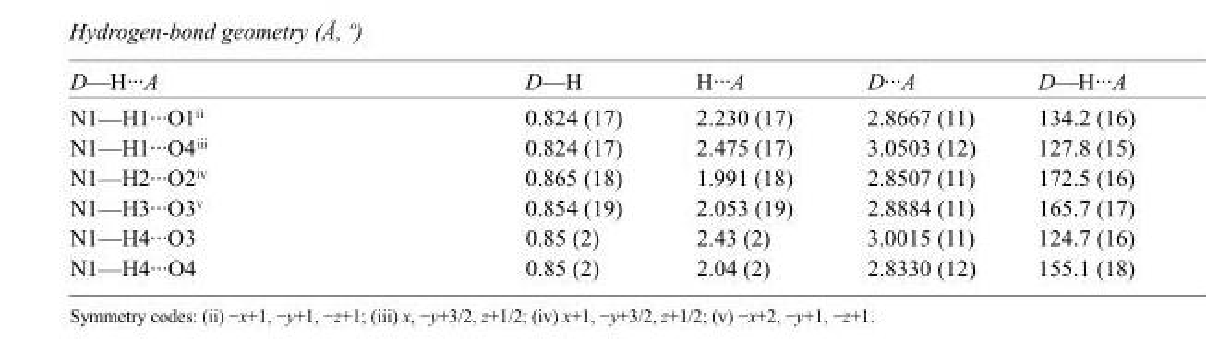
<table><tbody><tr><td>D—H···A</td><td>D—H</td><td>H···A</td><td>D···A</td><td>D—H···A</td></tr><tr><td>N1—H1···O1<sup>ii</sup></td><td>0.824 (17)</td><td>2.230 (17)</td><td>2.8667 (11)</td><td>134.2 (16)</td></tr><tr><td>N1—H1···O4<sup>iii</sup></td><td>0.824 (17)</td><td>2.475 (17)</td><td>3.0503 (12)</td><td>127.8 (15)</td></tr><tr><td>N1—H2···O2<sup>iv</sup></td><td>0.865 (18)</td><td>1.991 (18)</td><td>2.8507 (11)</td><td>172.5 (16)</td></tr><tr><td>N1—H3···O3<sup>v</sup></td><td>0.854 (19)</td><td>2.053 (19)</td><td>2.8884 (11)</td><td>165.7 (17)</td></tr><tr><td>N1—H4···O3</td><td>0.85 (2)</td><td>2.43 (2)</td><td>3.0015 (11)</td><td>124.7 (16)</td></tr><tr><td>N1—H4···O4</td><td>0.85 (2)</td><td>2.04 (2)</td><td>2.8330 (12)</td><td>155.1 (18)</td></tr></tbody></table>